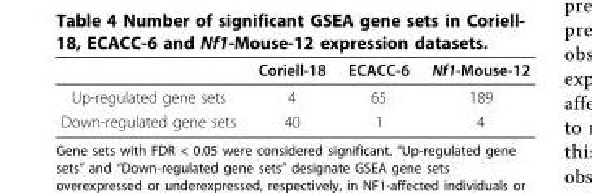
<table><thead><tr><td></td><td>Coriell-18</td><td>ECACC-6</td><td>Nf1-Mouse-12</td></tr></thead><tbody><tr><td>Up-regulated gene sets</td><td>4</td><td>65</td><td>189</td></tr><tr><td>Down-regulated gene sets</td><td>40</td><td>1</td><td>4</td></tr></tbody></table>